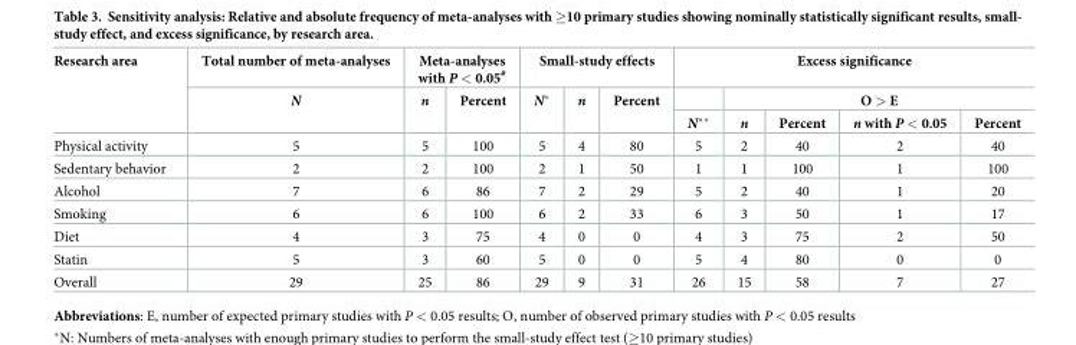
<table><thead><tr><td rowspan="3">Research area</td><td rowspan="3">Total number of meta-analyses N</td><td colspan="2">Meta-analyses with P &lt; 0.05<sup>#</sup></td><td colspan="3">Small-study effects</td><td colspan="5">Excess significance</td></tr><tr><td rowspan="2">n</td><td rowspan="2">Percent</td><td rowspan="2">N*</td><td rowspan="2">n</td><td rowspan="2">Percent</td><td rowspan="2">N**</td><td colspan="4">O &gt; E</td></tr><tr><td>n</td><td>Percent</td><td>n with P &lt; 0.05</td><td>Percent</td></tr></thead><tbody><tr><td>Physical activity</td><td>5</td><td>5</td><td>100</td><td>5</td><td>4</td><td>80</td><td>5</td><td>2</td><td>40</td><td>2</td><td>40</td></tr><tr><td>Sedentary behavior</td><td>2</td><td>2</td><td>100</td><td>2</td><td>1</td><td>50</td><td>1</td><td>1</td><td>100</td><td>1</td><td>100</td></tr><tr><td>Alcohol</td><td>7</td><td>6</td><td>86</td><td>7</td><td>2</td><td>29</td><td>5</td><td>2</td><td>40</td><td>1</td><td>20</td></tr><tr><td>Smoking</td><td>6</td><td>6</td><td>100</td><td>6</td><td>2</td><td>33</td><td>6</td><td>3</td><td>50</td><td>1</td><td>17</td></tr><tr><td>Diet</td><td>4</td><td>3</td><td>75</td><td>4</td><td>0</td><td>0</td><td>4</td><td>3</td><td>75</td><td>2</td><td>50</td></tr><tr><td>Statin</td><td>5</td><td>3</td><td>60</td><td>5</td><td>0</td><td>0</td><td>5</td><td>4</td><td>80</td><td>0</td><td>0</td></tr><tr><td>Overall</td><td>29</td><td>25</td><td>86</td><td>29</td><td>9</td><td>31</td><td>26</td><td>15</td><td>58</td><td>7</td><td>27</td></tr></tbody></table>